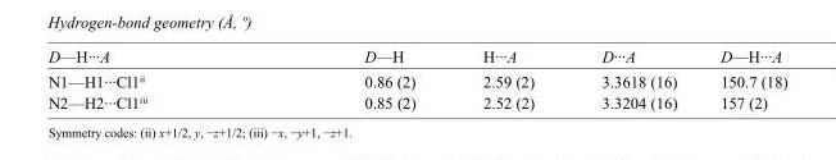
<table><tbody><tr><td>D—H···A</td><td>D—H</td><td>H···A</td><td>D···A</td><td>D—H···A</td></tr><tr><td>N1—H1···Cl1<sup>ii</sup></td><td>0.86 (2)</td><td>2.59 (2)</td><td>3.3618 (16)</td><td>150.7 (18)</td></tr><tr><td>N2—H2···Cl1<sup>iii</sup></td><td>0.85 (2)</td><td>2.52 (2)</td><td>3.3204 (16)</td><td>157 (2)</td></tr></tbody></table>